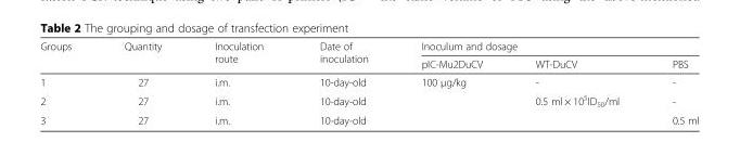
<table><thead><tr><td rowspan="2">Groups</td><td rowspan="2">Quantity</td><td rowspan="2">Inoculation route</td><td rowspan="2">Date of inoculation</td><td colspan="3">Inoculum and dosage</td></tr><tr><td>pIC-Mu2DuCV</td><td>WT-DuCV</td><td>PBS</td></tr></thead><tbody><tr><td>1</td><td>27</td><td>i.m.</td><td>10-day-old</td><td>100 μg/kg</td><td>-</td><td>-</td></tr><tr><td>2</td><td>27</td><td>i.m.</td><td>10-day-old</td><td></td><td>0.5 ml × 10<sup>5</sup>ID<sub>50</sub>/ml</td><td>-</td></tr><tr><td>3</td><td>27</td><td>i.m.</td><td>10-day-old</td><td></td><td></td><td>0.5 ml</td></tr></tbody></table>